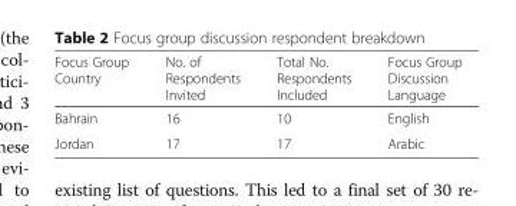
<table><thead><tr><td>Focus Group Country</td><td>No. of Respondents Invited</td><td>Total No. Respondents Included</td><td>Focus Group Discussion Language</td></tr></thead><tbody><tr><td>Bahrain</td><td>16</td><td>10</td><td>English</td></tr><tr><td>Jordan</td><td>17</td><td>17</td><td>Arabic</td></tr></tbody></table>